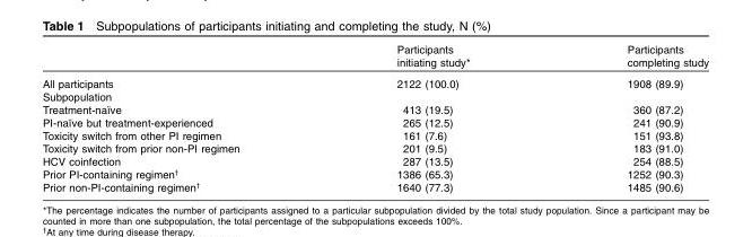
<table><thead><tr><td></td><td>Participants initiating study*</td><td>Participants completing study</td></tr></thead><tbody><tr><td>All participants</td><td>2122 (100.0)</td><td>1908 (89.9)</td></tr><tr><td colspan="3">Subpopulation</td></tr><tr><td>Treatment-naïve</td><td>413 (19.5)</td><td>360 (87.2)</td></tr><tr><td>PI-naïve but treatment-experienced</td><td>265 (12.5)</td><td>241 (90.9)</td></tr><tr><td>Toxicity switch from other PI regimen</td><td>161 (7.6)</td><td>151 (93.8)</td></tr><tr><td>Toxicity switch from prior non-PI regimen</td><td>201 (9.5)</td><td>183 (91.0)</td></tr><tr><td>HCV coinfection</td><td>287 (13.5)</td><td>254 (88.5)</td></tr><tr><td>Prior PI-containing regimen†</td><td>1386 (65.3)</td><td>1252 (90.3)</td></tr><tr><td>Prior non-PI-containing regimen†</td><td>1640 (77.3)</td><td>1485 (90.6)</td></tr></tbody></table>